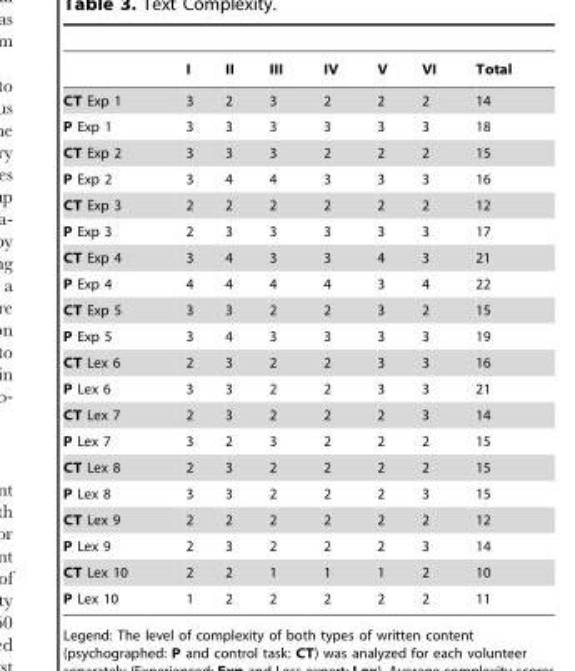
<table><thead><tr><td></td><td>I</td><td>II</td><td>III</td><td>IV</td><td>V</td><td>VI</td><td>Total</td></tr></thead><tbody><tr><td>CT Exp 1</td><td>3</td><td>2</td><td>3</td><td>2</td><td>2</td><td>2</td><td>14</td></tr><tr><td>P Exp 1</td><td>3</td><td>3</td><td>3</td><td>3</td><td>3</td><td>3</td><td>18</td></tr><tr><td>CT Exp 2</td><td>3</td><td>3</td><td>3</td><td>2</td><td>2</td><td>2</td><td>15</td></tr><tr><td>P Exp 2</td><td>3</td><td>4</td><td>4</td><td>3</td><td>3</td><td>3</td><td>16</td></tr><tr><td>CT Exp 3</td><td>2</td><td>2</td><td>2</td><td>2</td><td>2</td><td>2</td><td>12</td></tr><tr><td>P Exp 3</td><td>2</td><td>3</td><td>3</td><td>3</td><td>3</td><td>3</td><td>17</td></tr><tr><td>CT Exp 4</td><td>3</td><td>4</td><td>3</td><td>3</td><td>4</td><td>3</td><td>21</td></tr><tr><td>P Exp 4</td><td>4</td><td>4</td><td>4</td><td>4</td><td>3</td><td>4</td><td>22</td></tr><tr><td>CT Exp 5</td><td>3</td><td>3</td><td>2</td><td>2</td><td>3</td><td>2</td><td>15</td></tr><tr><td>P Exp 5</td><td>3</td><td>4</td><td>3</td><td>3</td><td>3</td><td>3</td><td>19</td></tr><tr><td>CT Lex 6</td><td>2</td><td>3</td><td>2</td><td>2</td><td>3</td><td>3</td><td>16</td></tr><tr><td>P Lex 6</td><td>3</td><td>3</td><td>2</td><td>2</td><td>3</td><td>3</td><td>21</td></tr><tr><td>CT Lex 7</td><td>2</td><td>3</td><td>2</td><td>2</td><td>2</td><td>3</td><td>14</td></tr><tr><td>P Lex 7</td><td>3</td><td>2</td><td>3</td><td>2</td><td>2</td><td>2</td><td>15</td></tr><tr><td>CT Lex 8</td><td>2</td><td>3</td><td>2</td><td>2</td><td>2</td><td>2</td><td>15</td></tr><tr><td>P Lex 8</td><td>3</td><td>3</td><td>2</td><td>2</td><td>2</td><td>3</td><td>15</td></tr><tr><td>CT Lex 9</td><td>2</td><td>2</td><td>2</td><td>2</td><td>2</td><td>2</td><td>12</td></tr><tr><td>P Lex 9</td><td>2</td><td>3</td><td>2</td><td>2</td><td>2</td><td>3</td><td>14</td></tr><tr><td>CT Lex 10</td><td>2</td><td>2</td><td>1</td><td>1</td><td>1</td><td>2</td><td>10</td></tr><tr><td>P Lex 10</td><td>1</td><td>2</td><td>2</td><td>2</td><td>2</td><td>2</td><td>11</td></tr></tbody></table>